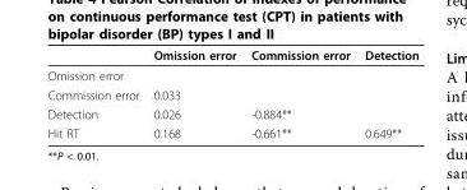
<table><thead><tr><td></td><td>Omission error</td><td>Commission error</td><td>Detection</td></tr></thead><tbody><tr><td colspan="4">Omission error</td></tr><tr><td>Commission error</td><td>0.033</td><td></td><td></td></tr><tr><td>Detection</td><td>0.026</td><td>-0.884**</td><td></td></tr><tr><td>Hit RT</td><td>0.168</td><td>-0.661**</td><td>0.649**</td></tr></tbody></table>